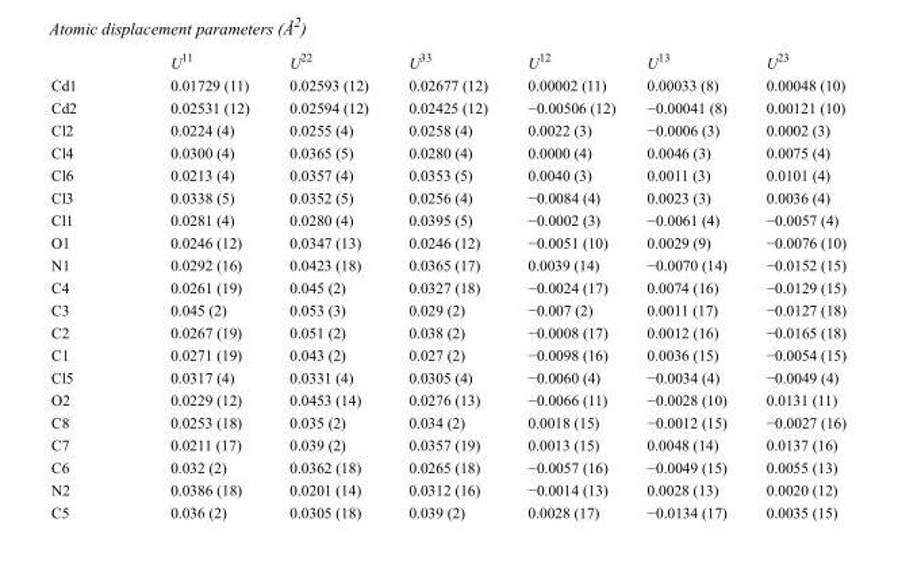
<table><thead><tr><td></td><td>U<sup>11</sup></td><td>U<sup>22</sup></td><td>U<sup>33</sup></td><td>U<sup>12</sup></td><td>U<sup>13</sup></td><td>U<sup>23</sup></td></tr></thead><tbody><tr><td>Cd1</td><td>0.01729 (11)</td><td>0.02593 (12)</td><td>0.02677 (12)</td><td>0.00002 (11)</td><td>0.00033 (8)</td><td>0.00048 (10)</td></tr><tr><td>Cd2</td><td>0.02531 (12)</td><td>0.02594 (12)</td><td>0.02425 (12)</td><td>−0.00506 (12)</td><td>−0.00041 (8)</td><td>0.00121 (10)</td></tr><tr><td>Cl2</td><td>0.0224 (4)</td><td>0.0255 (4)</td><td>0.0258 (4)</td><td>0.0022 (3)</td><td>−0.0006 (3)</td><td>0.0002 (3)</td></tr><tr><td>Cl4</td><td>0.0300 (4)</td><td>0.0365 (5)</td><td>0.0280 (4)</td><td>0.0000 (4)</td><td>0.0046 (3)</td><td>0.0075 (4)</td></tr><tr><td>Cl6</td><td>0.0213 (4)</td><td>0.0357 (4)</td><td>0.0353 (5)</td><td>0.0040 (3)</td><td>0.0011 (3)</td><td>0.0101 (4)</td></tr><tr><td>Cl3</td><td>0.0338 (5)</td><td>0.0352 (5)</td><td>0.0256 (4)</td><td>−0.0084 (4)</td><td>0.0023 (3)</td><td>0.0036 (4)</td></tr><tr><td>Cl1</td><td>0.0281 (4)</td><td>0.0280 (4)</td><td>0.0395 (5)</td><td>−0.0002 (3)</td><td>−0.0061 (4)</td><td>−0.0057 (4)</td></tr><tr><td>O1</td><td>0.0246 (12)</td><td>0.0347 (13)</td><td>0.0246 (12)</td><td>−0.0051 (10)</td><td>0.0029 (9)</td><td>−0.0076 (10)</td></tr><tr><td>N1</td><td>0.0292 (16)</td><td>0.0423 (18)</td><td>0.0365 (17)</td><td>0.0039 (14)</td><td>−0.0070 (14)</td><td>−0.0152 (15)</td></tr><tr><td>C4</td><td>0.0261 (19)</td><td>0.045 (2)</td><td>0.0327 (18)</td><td>−0.0024 (17)</td><td>0.0074 (16)</td><td>−0.0129 (15)</td></tr><tr><td>C3</td><td>0.045 (2)</td><td>0.053 (3)</td><td>0.029 (2)</td><td>−0.007 (2)</td><td>0.0011 (17)</td><td>−0.0127 (18)</td></tr><tr><td>C2</td><td>0.0267 (19)</td><td>0.051 (2)</td><td>0.038 (2)</td><td>−0.0008 (17)</td><td>0.0012 (16)</td><td>−0.0165 (18)</td></tr><tr><td>C1</td><td>0.0271 (19)</td><td>0.043 (2)</td><td>0.027 (2)</td><td>−0.0098 (16)</td><td>0.0036 (15)</td><td>−0.0054 (15)</td></tr><tr><td>Cl5</td><td>0.0317 (4)</td><td>0.0331 (4)</td><td>0.0305 (4)</td><td>−0.0060 (4)</td><td>−0.0034 (4)</td><td>−0.0049 (4)</td></tr><tr><td>O2</td><td>0.0229 (12)</td><td>0.0453 (14)</td><td>0.0276 (13)</td><td>−0.0066 (11)</td><td>−0.0028 (10)</td><td>0.0131 (11)</td></tr><tr><td>C8</td><td>0.0253 (18)</td><td>0.035 (2)</td><td>0.034 (2)</td><td>0.0018 (15)</td><td>−0.0012 (15)</td><td>−0.0027 (16)</td></tr><tr><td>C7</td><td>0.0211 (17)</td><td>0.039 (2)</td><td>0.0357 (19)</td><td>0.0013 (15)</td><td>0.0048 (14)</td><td>0.0137 (16)</td></tr><tr><td>C6</td><td>0.032 (2)</td><td>0.0362 (18)</td><td>0.0265 (18)</td><td>−0.0057 (16)</td><td>−0.0049 (15)</td><td>0.0055 (13)</td></tr><tr><td>N2</td><td>0.0386 (18)</td><td>0.0201 (14)</td><td>0.0312 (16)</td><td>−0.0014 (13)</td><td>0.0028 (13)</td><td>0.0020 (12)</td></tr><tr><td>C5</td><td>0.036 (2)</td><td>0.0305 (18)</td><td>0.039 (2)</td><td>0.0028 (17)</td><td>−0.0134 (17)</td><td>0.0035 (15)</td></tr></tbody></table>